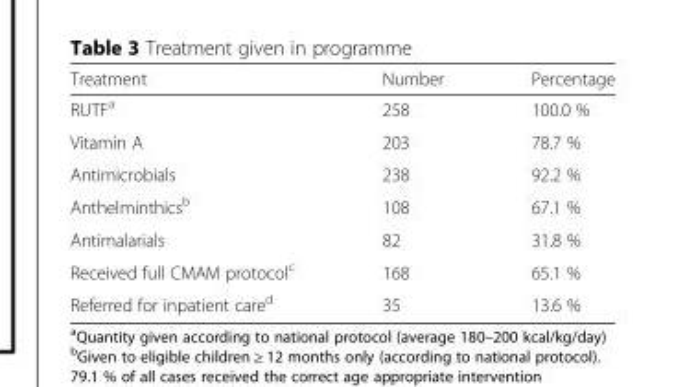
<table><thead><tr><td>Treatment</td><td>Number</td><td>Percentage</td></tr></thead><tbody><tr><td>RUTF<sup>a</sup></td><td>258</td><td>100.0 %</td></tr><tr><td>Vitamin A</td><td>203</td><td>78.7 %</td></tr><tr><td>Antimicrobials</td><td>238</td><td>92.2 %</td></tr><tr><td>Anthelminthics<sup>b</sup></td><td>108</td><td>67.1 %</td></tr><tr><td>Antimalarials</td><td>82</td><td>31.8 %</td></tr><tr><td>Received full CMAM protocol<sup>c</sup></td><td>168</td><td>65.1 %</td></tr><tr><td>Referred for inpatient care<sup>d</sup></td><td>35</td><td>13.6 %</td></tr></tbody></table>